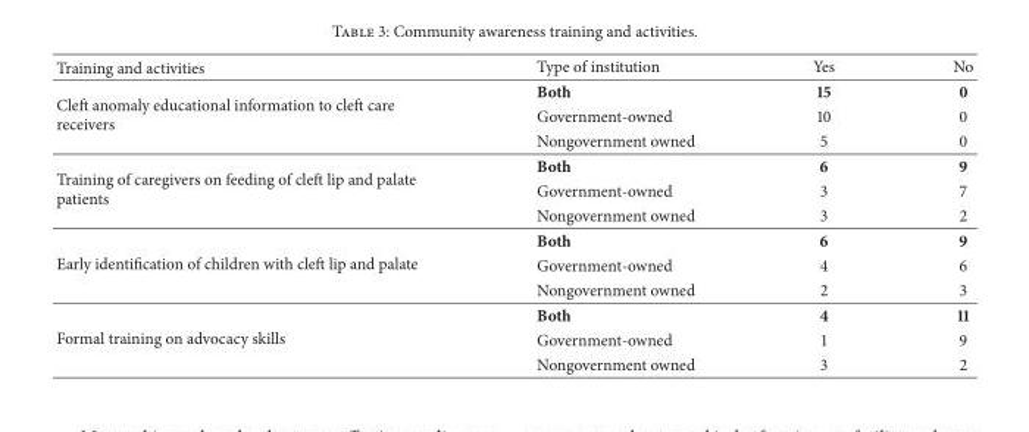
<table><thead><tr><td>Training and activities</td><td>Type of institution</td><td>Yes</td><td>No</td></tr></thead><tbody><tr><td rowspan="3">Cleft anomaly educational information to cleft care receivers</td><td>Both</td><td>15</td><td>0</td></tr><tr><td>Government-owned</td><td>10</td><td>0</td></tr><tr><td>Nongovernment owned</td><td>5</td><td>0</td></tr><tr><td rowspan="3">Training of caregivers on feeding of cleft lip and palate patients</td><td>Both</td><td>6</td><td>9</td></tr><tr><td>Government-owned</td><td>3</td><td>7</td></tr><tr><td>Nongovernment owned</td><td>3</td><td>2</td></tr><tr><td rowspan="3">Early identification of children with cleft lip and palate</td><td>Both</td><td>6</td><td>9</td></tr><tr><td>Government-owned</td><td>4</td><td>6</td></tr><tr><td>Nongovernment owned</td><td>2</td><td>3</td></tr><tr><td rowspan="3">Formal training on advocacy skills</td><td>Both</td><td>4</td><td>11</td></tr><tr><td>Government-owned</td><td>1</td><td>9</td></tr><tr><td>Nongovernment owned</td><td>3</td><td>2</td></tr></tbody></table>